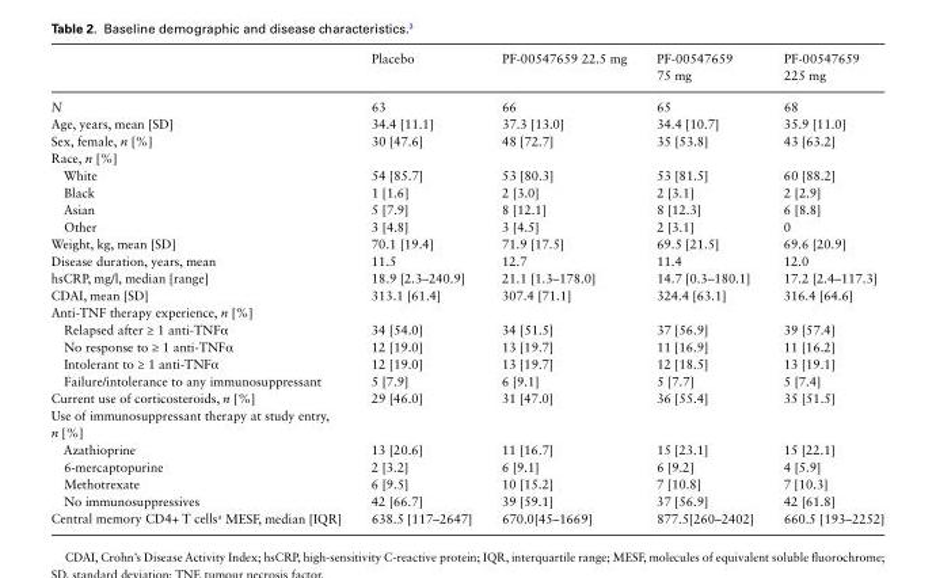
<table><thead><tr><td></td><td>Placebo</td><td>PF-00547659 22.5 mg</td><td>PF-00547659 75 mg</td><td>PF-00547659 225 mg</td></tr></thead><tbody><tr><td>N</td><td>63</td><td>66</td><td>65</td><td>68</td></tr><tr><td>Age, years, mean [SD]</td><td>34.4 [11.1]</td><td>37.3 [13.0]</td><td>34.4 [10.7]</td><td>35.9 [11.0]</td></tr><tr><td>Sex, female, n [%]</td><td>30 [47.6]</td><td>48 [72.7]</td><td>35 [53.8]</td><td>43 [63.2]</td></tr><tr><td colspan="5">Race, n [%]</td></tr><tr><td>White</td><td>54 [85.7]</td><td>53 [80.3]</td><td>53 [81.5]</td><td>60 [88.2]</td></tr><tr><td>Black</td><td>1 [1.6]</td><td>2 [3.0]</td><td>2 [3.1]</td><td>2 [2.9]</td></tr><tr><td>Asian</td><td>5 [7.9]</td><td>8 [12.1]</td><td>8 [12.3]</td><td>6 [8.8]</td></tr><tr><td>Other</td><td>3 [4.8]</td><td>3 [4.5]</td><td>2 [3.1]</td><td>0</td></tr><tr><td>Weight, kg, mean [SD]</td><td>70.1 [19.4]</td><td>71.9 [17.5]</td><td>69.5 [21.5]</td><td>69.6 [20.9]</td></tr><tr><td>Disease duration, years, mean</td><td>11.5</td><td>12.7</td><td>11.4</td><td>12.0</td></tr><tr><td>hsCRP, mg/l, median [range]</td><td>18.9 [2.3–240.9]</td><td>21.1 [1.3–178.0]</td><td>14.7 [0.3–180.1]</td><td>17.2 [2.4–117.3]</td></tr><tr><td>CDAI, mean [SD]</td><td>313.1 [61.4]</td><td>307.4 [71.1]</td><td>324.4 [63.1]</td><td>316.4 [64.6]</td></tr><tr><td colspan="5">Anti-TNF therapy experience, n [%]</td></tr><tr><td>Relapsed after ≥ 1 anti-TNFα</td><td>34 [54.0]</td><td>34 [51.5]</td><td>37 [56.9]</td><td>39 [57.4]</td></tr><tr><td>No response to ≥ 1 anti-TNFα</td><td>12 [19.0]</td><td>13 [19.7]</td><td>11 [16.9]</td><td>11 [16.2]</td></tr><tr><td>Intolerant to ≥ 1 anti-TNFα</td><td>12 [19.0]</td><td>13 [19.7]</td><td>12 [18.5]</td><td>13 [19.1]</td></tr><tr><td>Failure/intolerance to any immunosuppressant</td><td>5 [7.9]</td><td>6 [9.1]</td><td>5 [7.7]</td><td>5 [7.4]</td></tr><tr><td>Current use of corticosteroids, n [%]</td><td>29 [46.0]</td><td>31 [47.0]</td><td>36 [55.4]</td><td>35 [51.5]</td></tr><tr><td colspan="5">Use of immunosuppressant therapy at study entry, n [%]</td></tr><tr><td>Azathioprine</td><td>13 [20.6]</td><td>11 [16.7]</td><td>15 [23.1]</td><td>15 [22.1]</td></tr><tr><td>6-mercaptopurine</td><td>2 [3.2]</td><td>6 [9.1]</td><td>6 [9.2]</td><td>4 [5.9]</td></tr><tr><td>Methotrexate</td><td>6 [9.5]</td><td>10 [15.2]</td><td>7 [10.8]</td><td>7 [10.3]</td></tr><tr><td>No immunosuppressives</td><td>42 [66.7]</td><td>39 [59.1]</td><td>37 [56.9]</td><td>42 [61.8]</td></tr><tr><td>Central memory CD4+ T cells<sup>a</sup> MESF, median [IQR]</td><td>638.5 [117–2647]</td><td>670.0[45–1669]</td><td>877.5[260–2402]</td><td>660.5 [193–2252]</td></tr></tbody></table>